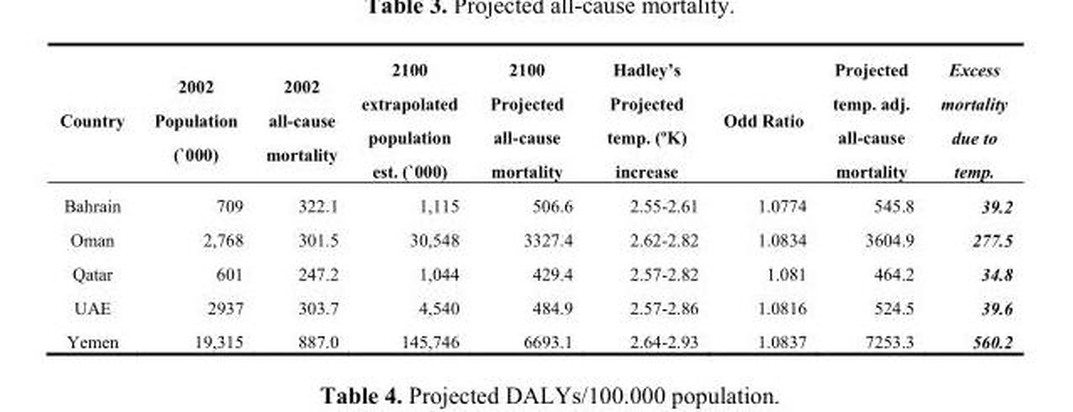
<table><thead><tr><td>Country</td><td>2002 Population (`000)</td><td>2002 all-cause mortality</td><td>2100 extrapolated population est. (`000)</td><td>2100 Projected all-cause mortality</td><td>Hadley’s Projected temp. (ºK) increase</td><td>Odd Ratio</td><td>Projected temp. adj. all-cause mortality</td><td>Excess mortality due to temp.</td></tr></thead><tbody><tr><td>Bahrain</td><td>709</td><td>322.1</td><td>1,115</td><td>506.6</td><td>2.55-2.61</td><td>1.0774</td><td>545.8</td><td>39.2</td></tr><tr><td>Oman</td><td>2,768</td><td>301.5</td><td>30,548</td><td>3327.4</td><td>2.62-2.82</td><td>1.0834</td><td>3604.9</td><td>277.5</td></tr><tr><td>Qatar</td><td>601</td><td>247.2</td><td>1,044</td><td>429.4</td><td>2.57-2.82</td><td>1.081</td><td>464.2</td><td>34.8</td></tr><tr><td>UAE</td><td>2937</td><td>303.7</td><td>4,540</td><td>484.9</td><td>2.57-2.86</td><td>1.0816</td><td>524.5</td><td>39.6</td></tr><tr><td>Yemen</td><td>19,315</td><td>887.0</td><td>145,746</td><td>6693.1</td><td>2.64-2.93</td><td>1.0837</td><td>7253.3</td><td>560.2</td></tr></tbody></table>